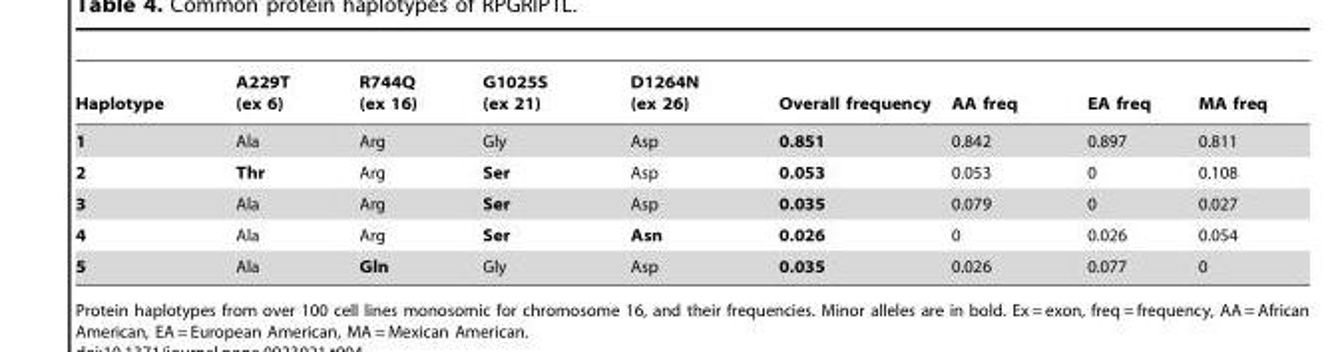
<table><thead><tr><td>Haplotype</td><td>A229T (ex 6)</td><td>R744Q (ex 16)</td><td>G1025S (ex 21)</td><td>D1264N (ex 26)</td><td>Overall frequency</td><td>AA freq</td><td>EA freq</td><td>MA freq</td></tr></thead><tbody><tr><td>1</td><td>Ala</td><td>Arg</td><td>Gly</td><td>Asp</td><td>0.851</td><td>0.842</td><td>0.897</td><td>0.811</td></tr><tr><td>2</td><td>Thr</td><td>Arg</td><td>Ser</td><td>Asp</td><td>0.053</td><td>0.053</td><td>0</td><td>0.108</td></tr><tr><td>3</td><td>Ala</td><td>Arg</td><td>Ser</td><td>Asp</td><td>0.035</td><td>0.079</td><td>0</td><td>0.027</td></tr><tr><td>4</td><td>Ala</td><td>Arg</td><td>Ser</td><td>Asn</td><td>0.026</td><td>0</td><td>0.026</td><td>0.054</td></tr><tr><td>5</td><td>Ala</td><td>Gln</td><td>Gly</td><td>Asp</td><td>0.035</td><td>0.026</td><td>0.077</td><td>0</td></tr></tbody></table>